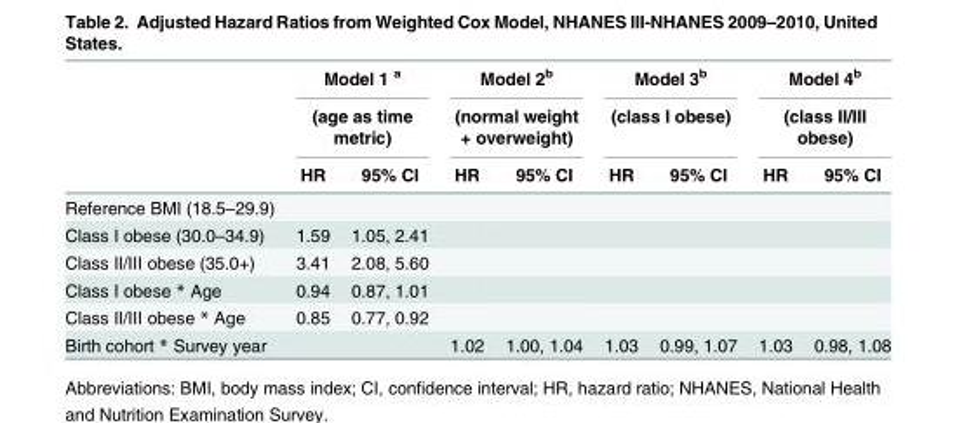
<table><thead><tr><td rowspan="3"></td><td rowspan="2" colspan="2">Model 1 <sup>a</sup> (age as time metric)</td><td rowspan="2" colspan="2">Model 2<sup>b</sup> (normal weight + overweight)</td><td rowspan="2" colspan="2">Model 3<sup>b</sup> (class I obese)</td><td rowspan="2" colspan="2">Model 4<sup>b</sup> (class II/III obese)</td></tr><tr></tr><tr><td>HR</td><td>95% CI</td><td>HR</td><td>95% CI</td><td>HR</td><td>95% CI</td><td>HR</td><td>95% CI</td></tr></thead><tbody><tr><td colspan="9">Reference BMI (18.5–29.9)</td></tr><tr><td>Class I obese (30.0–34.9)</td><td>1.59</td><td>1.05, 2.41</td><td></td><td></td><td></td><td></td><td></td><td></td></tr><tr><td>Class II/III obese (35.0+)</td><td>3.41</td><td>2.08, 5.60</td><td></td><td></td><td></td><td></td><td></td><td></td></tr><tr><td>Class I obese * Age</td><td>0.94</td><td>0.87, 1.01</td><td></td><td></td><td></td><td></td><td></td><td></td></tr><tr><td>Class II/III obese * Age</td><td>0.85</td><td>0.77, 0.92</td><td></td><td></td><td></td><td></td><td></td><td></td></tr><tr><td>Birth cohort * Survey year</td><td></td><td></td><td>1.02</td><td>1.00, 1.04</td><td>1.03</td><td>0.99, 1.07</td><td>1.03</td><td>0.98, 1.08</td></tr></tbody></table>